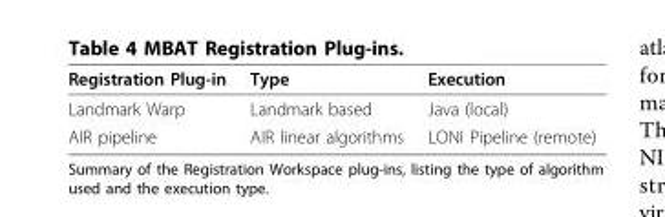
<table><thead><tr><td>Registration Plug-in</td><td>Type</td><td>Execution</td></tr></thead><tbody><tr><td>Landmark Warp</td><td>Landmark based</td><td>Java (local)</td></tr><tr><td>AIR pipeline</td><td>AIR linear algorithms</td><td>LONI Pipeline (remote)</td></tr></tbody></table>